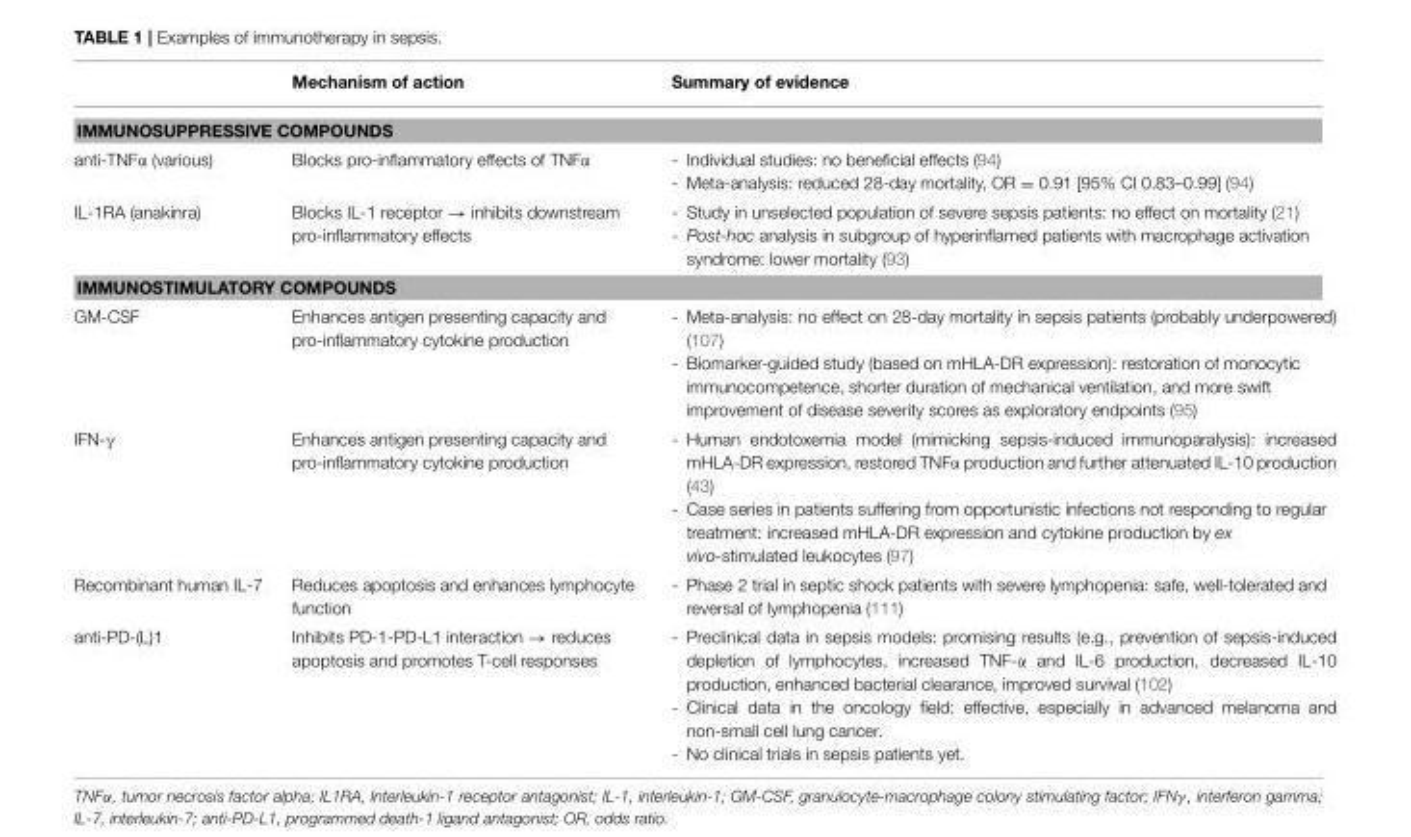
<table><thead><tr><td></td><td>Mechanism of action</td><td>Summary of evidence</td></tr></thead><tbody><tr><td colspan="3">IMMUNOSUPPRESSIVE COMPOUNDS</td></tr><tr><td>anti-TNFα (various)</td><td>Blocks pro-inflammatory effects of TNFα</td><td>- Individual studies: no beneficial effects (94) - Meta-analysis: reduced 28-day mortality, OR = 0.91 [95% CI 0.83–0.99] (94)</td></tr><tr><td>IL-1RA (anakinra)</td><td>Blocks IL-1 receptor → inhibits downstream pro-inflammatory effects</td><td>- Study in unselected population of severe sepsis patients: no effect on mortality (21) - Post-hoc analysis in subgroup of hyperinflamed patients with macrophage activation syndrome: lower mortality (93)</td></tr><tr><td colspan="3">IMMUNOSTIMULATORY COMPOUNDS</td></tr><tr><td>GM-CSF</td><td>Enhances antigen presenting capacity and pro-inflammatory cytokine production</td><td>- Meta-analysis: no effect on 28-day mortality in sepsis patients (probably underpowered) (107) - Biomarker-guided study (based on mHLA-DR expression): restoration of monocytic immunocompetence, shorter duration of mechanical ventilation, and more swift improvement of disease severity scores as exploratory endpoints (95)</td></tr><tr><td>IFN-γ</td><td>Enhances antigen presenting capacity and pro-inflammatory cytokine production</td><td>- Human endotoxemia model (mimicking sepsis-induced immunoparalysis): increased mHLA-DR expression, restored TNFα production and further attenuated IL-10 production (43) - Case series in patients suffering from opportunistic infections not responding to regular treatment: increased mHLA-DR expression and cytokine production by ex vivo-stimulated leukocytes (97)</td></tr><tr><td>Recombinant human IL-7</td><td>Reduces apoptosis and enhances lymphocyte function</td><td>- Phase 2 trial in septic shock patients with severe lymphopenia: safe, well-tolerated and reversal of lymphopenia (111)</td></tr><tr><td>anti-PD-(L)1</td><td>Inhibits PD-1-PD-L1 interaction → reduces apoptosis and promotes T-cell responses</td><td>- Preclinical data in sepsis models: promising results (e.g., prevention of sepsis-induced depletion of lymphocytes, increased TNF-α and IL-6 production, decreased IL-10 production, enhanced bacterial clearance, improved survival (102) - Clinical data in the oncology field: effective, especially in advanced melanoma and non-small cell lung cancer. - No clinical trials in sepsis patients yet.</td></tr></tbody></table>